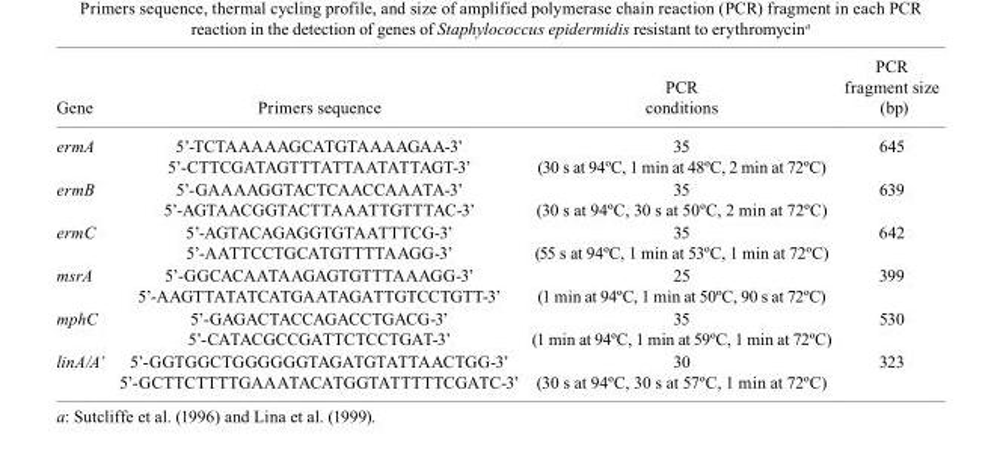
<table><thead><tr><td>Gene</td><td>Primers sequence</td><td>PCR conditions</td><td>PCR fragment size (bp)</td></tr></thead><tbody><tr><td>ermA</td><td>5’-TCTAAAAAGCATGTAAAAGAA-3’ 5’-CTTCGATAGTTTATTAATATTAGT-3’</td><td>35 (30 s at 94ºC, 1 min at 48ºC, 2 min at 72ºC)</td><td>645</td></tr><tr><td>ermB</td><td>5’-GAAAAGGTACTCAACCAAATA-3’ 5’-AGTAACGGTACTTAAATTGTTTAC-3’</td><td>35 (30 s at 94ºC, 30 s at 50ºC, 2 min at 72ºC)</td><td>639</td></tr><tr><td>ermC</td><td>5’-AGTACAGAGGTGTAATTTCG-3’ 5’-AATTCCTGCATGTTTTAAGG-3’</td><td>35 (55 s at 94ºC, 1 min at 53ºC, 1 min at 72ºC)</td><td>642</td></tr><tr><td>msrA</td><td>5’-GGCACAATAAGAGTGTTTAAAGG-3’ 5’-AAGTTATATCATGAATAGATTGTCCTGTT-3’</td><td>25 (1 min at 94ºC, 1 min at 50ºC, 90 s at 72ºC)</td><td>399</td></tr><tr><td>mphC</td><td>5’-GAGACTACCAGACCTGACG-3’ 5’-CATACGCCGATTCTCCTGAT-3’</td><td>35 (1 min at 94ºC, 1 min at 59ºC, 1 min at 72ºC)</td><td>530</td></tr><tr><td>linA/A’</td><td>5’-GGTGGCTGGGGGGTAGATGTATTAACTGG-3’ 5’-GCTTCTTTTGAAATACATGGTATTTTTCGATC-3’</td><td>30 (30 s at 94ºC, 30 s at 57ºC, 1 min at 72ºC)</td><td>323</td></tr></tbody></table>